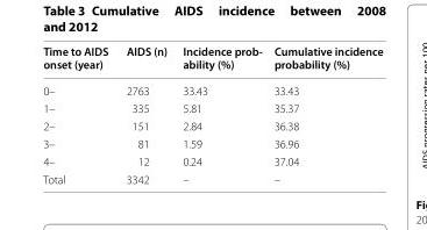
<table><thead><tr><td>Time to AIDS onset (year)</td><td>AIDS (n)</td><td>Incidence prob- ability (%)</td><td>Cumulative incidence probability (%)</td></tr></thead><tbody><tr><td>0–</td><td>2763</td><td>33.43</td><td>33.43</td></tr><tr><td>1–</td><td>335</td><td>5.81</td><td>35.37</td></tr><tr><td>2–</td><td>151</td><td>2.84</td><td>36.38</td></tr><tr><td>3–</td><td>81</td><td>1.59</td><td>36.96</td></tr><tr><td>4–</td><td>12</td><td>0.24</td><td>37.04</td></tr><tr><td>Total</td><td>3342</td><td>–</td><td>–</td></tr></tbody></table>